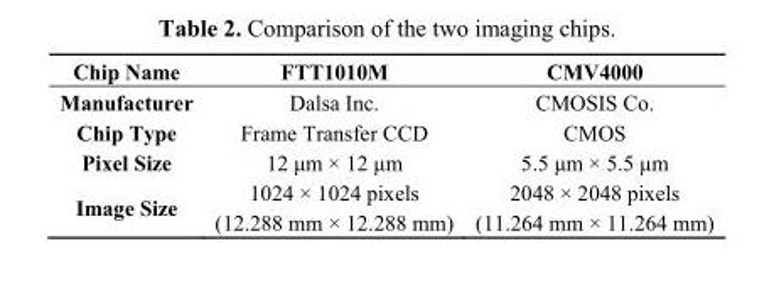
<table><thead><tr><td>Chip Name</td><td>FTT1010M</td><td>CMV4000</td></tr></thead><tbody><tr><td>Manufacturer</td><td>Dalsa Inc.</td><td>CMOSIS Co.</td></tr><tr><td>Chip Type</td><td>Frame Transfer CCD</td><td>CMOS</td></tr><tr><td>Pixel Size</td><td>12 μm × 12 μm</td><td>5.5 μm × 5.5 μm</td></tr><tr><td>Image Size</td><td>1024 × 1024 pixels (12.288 mm × 12.288 mm)</td><td>2048 × 2048 pixels (11.264 mm × 11.264 mm)</td></tr></tbody></table>